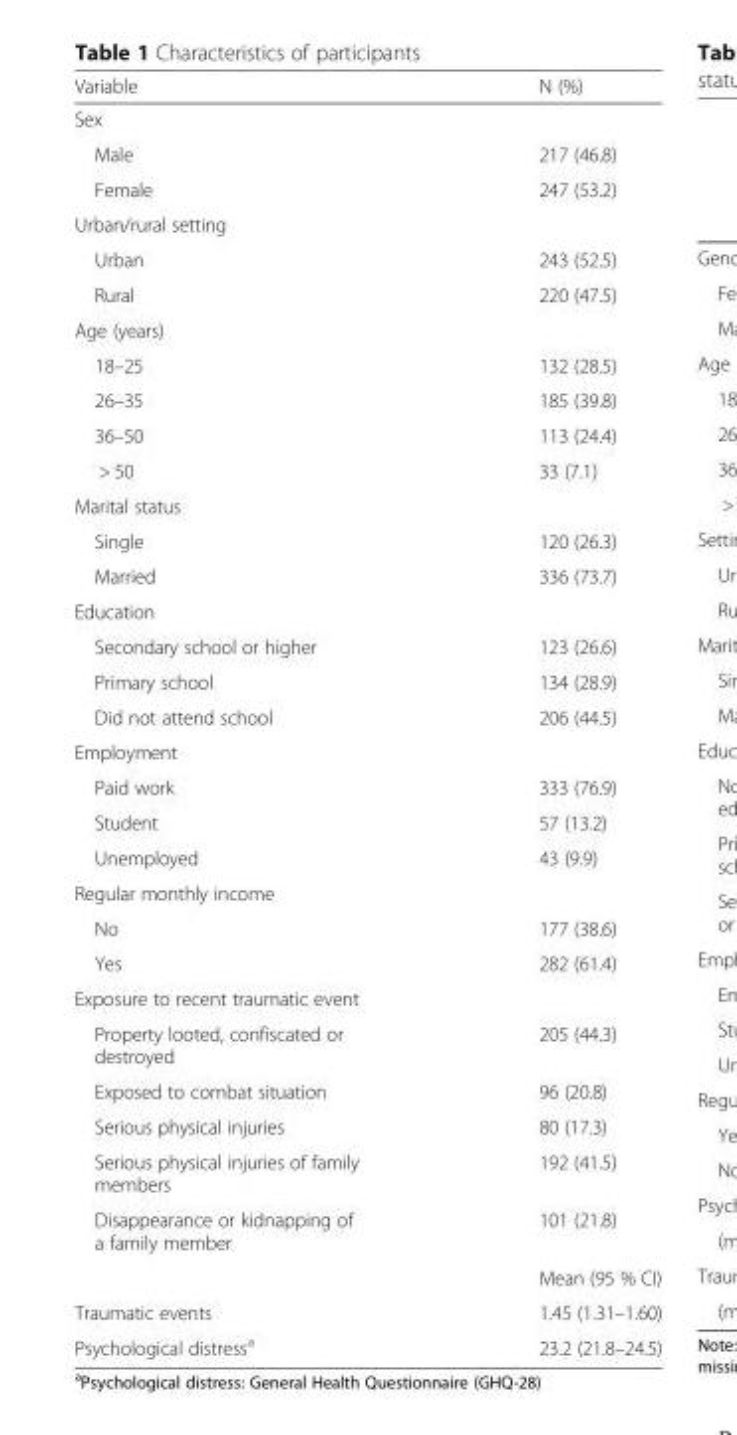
<table><thead><tr><td>Variable</td><td>N (%)</td></tr></thead><tbody><tr><td colspan="2">Sex</td></tr><tr><td>Male</td><td>217 (46.8)</td></tr><tr><td>Female</td><td>247 (53.2)</td></tr><tr><td colspan="2">Urban/rural setting</td></tr><tr><td>Urban</td><td>243 (52.5)</td></tr><tr><td>Rural</td><td>220 (47.5)</td></tr><tr><td colspan="2">Age (years)</td></tr><tr><td>18–25</td><td>132 (28.5)</td></tr><tr><td>26–35</td><td>185 (39.8)</td></tr><tr><td>36–50</td><td>113 (24.4)</td></tr><tr><td>&gt; 50</td><td>33 (7.1)</td></tr><tr><td colspan="2">Marital status</td></tr><tr><td>Single</td><td>120 (26.3)</td></tr><tr><td>Married</td><td>336 (73.7)</td></tr><tr><td colspan="2">Education</td></tr><tr><td>Secondary school or higher</td><td>123 (26.6)</td></tr><tr><td>Primary school</td><td>134 (28.9)</td></tr><tr><td>Did not attend school</td><td>206 (44.5)</td></tr><tr><td colspan="2">Employment</td></tr><tr><td>Paid work</td><td>333 (76.9)</td></tr><tr><td>Student</td><td>57 (13.2)</td></tr><tr><td>Unemployed</td><td>43 (9.9)</td></tr><tr><td colspan="2">Regular monthly income</td></tr><tr><td>No</td><td>177 (38.6)</td></tr><tr><td>Yes</td><td>282 (61.4)</td></tr><tr><td colspan="2">Exposure to recent traumatic event</td></tr><tr><td>Property looted, confiscated or destroyed</td><td>205 (44.3)</td></tr><tr><td>Exposed to combat situation</td><td>96 (20.8)</td></tr><tr><td>Serious physical injuries</td><td>80 (17.3)</td></tr><tr><td>Serious physical injuries of family members</td><td>192 (41.5)</td></tr><tr><td rowspan="2">Disappearance or kidnapping of a family member</td><td>101 (21.8)</td></tr><tr><td>Mean (95 % CI)</td></tr><tr><td>Traumatic events</td><td>1.45 (1.31–1.60)</td></tr><tr><td>Psychological distress<sup>a</sup></td><td>23.2 (21.8–24.5)</td></tr></tbody></table>